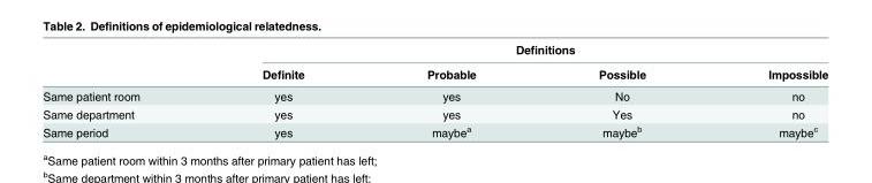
<table><thead><tr><td rowspan="2"></td><td colspan="4">Definitions</td></tr><tr><td>Definite</td><td>Probable</td><td>Possible</td><td>Impossible</td></tr></thead><tbody><tr><td>Same patient room</td><td>yes</td><td>yes</td><td>No</td><td>no</td></tr><tr><td>Same department</td><td>yes</td><td>yes</td><td>Yes</td><td>no</td></tr><tr><td>Same period</td><td>yes</td><td>maybe<sup>a</sup></td><td>maybe<sup>b</sup></td><td>maybe<sup>c</sup></td></tr></tbody></table>